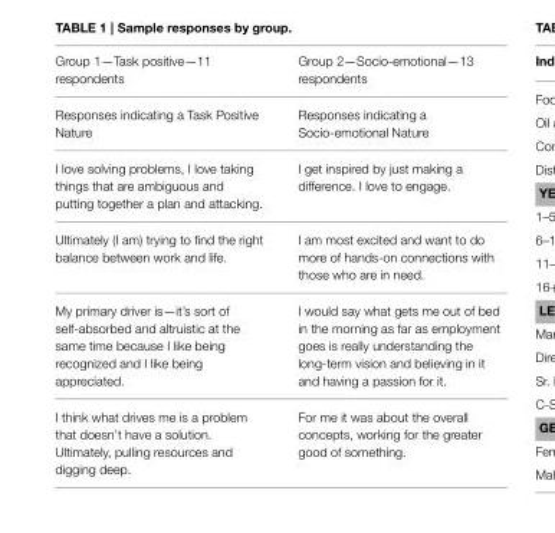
<table><thead><tr><td>Group 1—Task positive—11 respondents</td><td>Group 2—Socio-emotional—13 respondents</td></tr></thead><tbody><tr><td>Responses indicating a Task Positive Nature</td><td>Responses indicating a Socio-emotional Nature</td></tr><tr><td>I love solving problems, I love taking things that are ambiguous and putting together a plan and attacking.</td><td>I get inspired by just making a difference. I love to engage.</td></tr><tr><td>Ultimately (I am) trying to find the right balance between work and life.</td><td>I am most excited and want to do more of hands-on connections with those who are in need.</td></tr><tr><td>My primary driver is—it’s sort of self-absorbed and altruistic at the same time because I like being recognized and I like being appreciated.</td><td>I would say what gets me out of bed in the morning as far as employment goes is really understanding the long-term vision and believing in it and having a passion for it.</td></tr><tr><td>I think what drives me is a problem that doesn’t have a solution. Ultimately, pulling resources and digging deep.</td><td>For me it was about the overall concepts, working for the greater good of something.</td></tr></tbody></table>